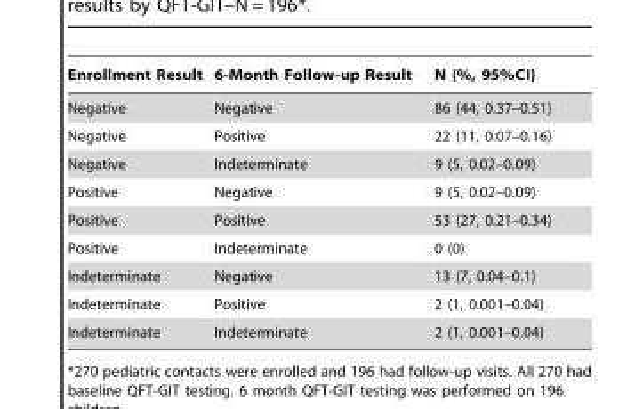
<table><thead><tr><td>Enrollment Result</td><td>6-Month Follow-up Result</td><td>N (%, 95%CI)</td></tr></thead><tbody><tr><td>Negative</td><td>Negative</td><td>86 (44, 0.37–0.51)</td></tr><tr><td>Negative</td><td>Positive</td><td>22 (11, 0.07–0.16)</td></tr><tr><td>Negative</td><td>Indeterminate</td><td>9 (5, 0.02–0.09)</td></tr><tr><td>Positive</td><td>Negative</td><td>9 (5, 0.02–0.09)</td></tr><tr><td>Positive</td><td>Positive</td><td>53 (27, 0.21–0.34)</td></tr><tr><td>Positive</td><td>Indeterminate</td><td>0 (0)</td></tr><tr><td>Indeterminate</td><td>Negative</td><td>13 (7, 0.04–0.1)</td></tr><tr><td>Indeterminate</td><td>Positive</td><td>2 (1, 0.001–0.04)</td></tr><tr><td>Indeterminate</td><td>Indeterminate</td><td>2 (1, 0.001–0.04)</td></tr></tbody></table>